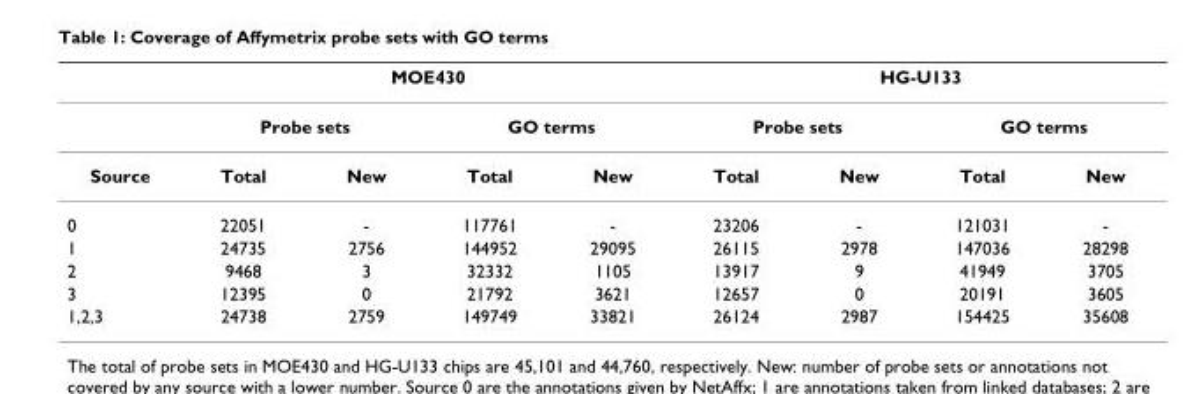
<table><thead><tr><td rowspan="3">Source</td><td colspan="4">MOE430</td><td colspan="4">HG-U133</td></tr><tr><td colspan="2">Probe sets</td><td colspan="2">GO terms</td><td colspan="2">Probe sets</td><td colspan="2">GO terms</td></tr><tr><td>Total</td><td>New</td><td>Total</td><td>New</td><td>Total</td><td>New</td><td>Total</td><td>New</td></tr></thead><tbody><tr><td>0</td><td>22051</td><td>-</td><td>117761</td><td>-</td><td>23206</td><td>-</td><td>121031</td><td>-</td></tr><tr><td>1</td><td>24735</td><td>2756</td><td>144952</td><td>29095</td><td>26115</td><td>2978</td><td>147036</td><td>28298</td></tr><tr><td>2</td><td>9468</td><td>3</td><td>32332</td><td>1105</td><td>13917</td><td>9</td><td>41949</td><td>3705</td></tr><tr><td>3</td><td>12395</td><td>0</td><td>21792</td><td>3621</td><td>12657</td><td>0</td><td>20191</td><td>3605</td></tr><tr><td>1,2,3</td><td>24738</td><td>2759</td><td>149749</td><td>33821</td><td>26124</td><td>2987</td><td>154425</td><td>35608</td></tr></tbody></table>